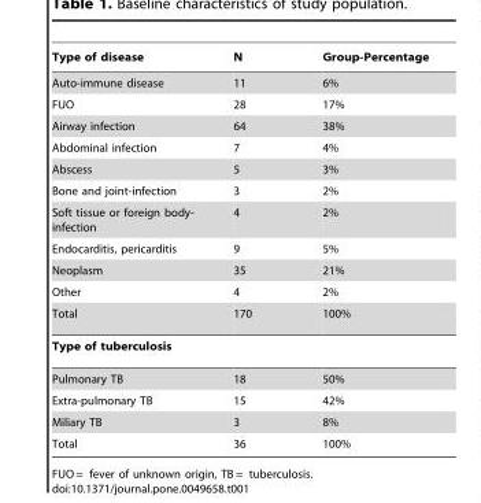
<table><thead><tr><td>Type of disease</td><td>N</td><td>Group-Percentage</td></tr></thead><tbody><tr><td>Auto-immune disease</td><td>11</td><td>6%</td></tr><tr><td>FUO</td><td>28</td><td>17%</td></tr><tr><td>Airway infection</td><td>64</td><td>38%</td></tr><tr><td>Abdominal infection</td><td>7</td><td>4%</td></tr><tr><td>Abscess</td><td>5</td><td>3%</td></tr><tr><td>Bone and joint-infection</td><td>3</td><td>2%</td></tr><tr><td>Soft tissue or foreign body- infection</td><td>4</td><td>2%</td></tr><tr><td>Endocarditis, pericarditis</td><td>9</td><td>5%</td></tr><tr><td>Neoplasm</td><td>35</td><td>21%</td></tr><tr><td>Other</td><td>4</td><td>2%</td></tr><tr><td>Total</td><td>170</td><td>100%</td></tr><tr><td colspan="3">Type of tuberculosis</td></tr><tr><td>Pulmonary TB</td><td>18</td><td>50%</td></tr><tr><td>Extra-pulmonary TB</td><td>15</td><td>42%</td></tr><tr><td>Miliary TB</td><td>3</td><td>8%</td></tr><tr><td>Total</td><td>36</td><td>100%</td></tr></tbody></table>